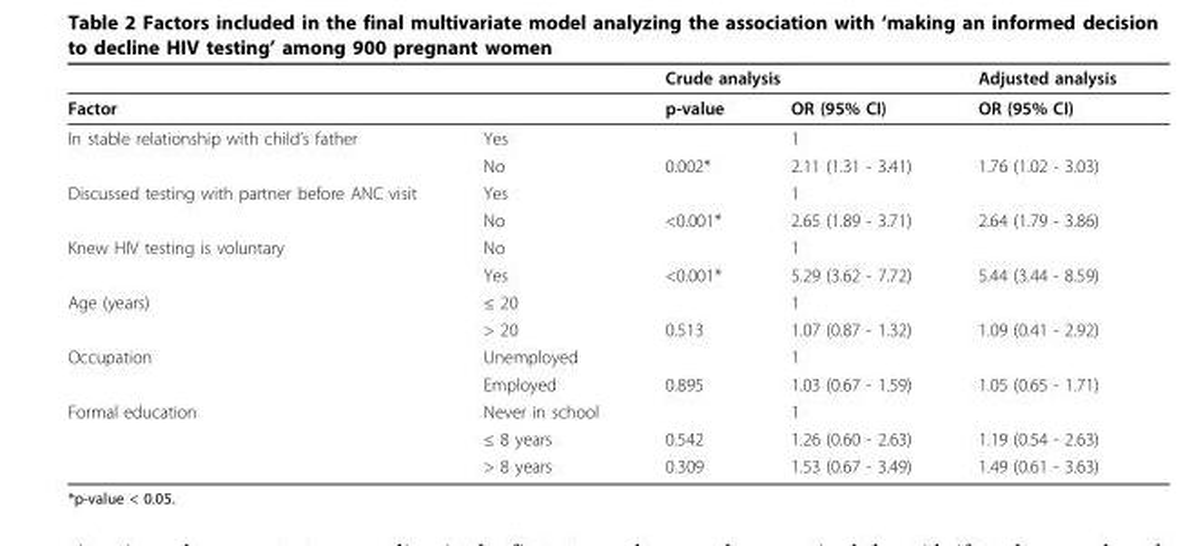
<table><thead><tr><td rowspan="2">Factor</td><td rowspan="2"></td><td colspan="2">Crude analysis</td><td rowspan="2">Adjusted analysis OR (95% CI)</td></tr><tr><td>p-value</td><td>OR (95% CI)</td></tr></thead><tbody><tr><td rowspan="2">In stable relationship with child’s father</td><td>Yes</td><td></td><td>1</td><td></td></tr><tr><td>No</td><td>0.002*</td><td>2.11 (1.31 - 3.41)</td><td>1.76 (1.02 - 3.03)</td></tr><tr><td rowspan="2">Discussed testing with partner before ANC visit</td><td>Yes</td><td></td><td>1</td><td></td></tr><tr><td>No</td><td>&lt;0.001*</td><td>2.65 (1.89 - 3.71)</td><td>2.64 (1.79 - 3.86)</td></tr><tr><td rowspan="2">Knew HIV testing is voluntary</td><td>No</td><td></td><td>1</td><td></td></tr><tr><td>Yes</td><td>&lt;0.001*</td><td>5.29 (3.62 - 7.72)</td><td>5.44 (3.44 - 8.59)</td></tr><tr><td rowspan="2">Age (years)</td><td>≤ 20</td><td></td><td>1</td><td></td></tr><tr><td>&gt; 20</td><td>0.513</td><td>1.07 (0.87 - 1.32)</td><td>1.09 (0.41 - 2.92)</td></tr><tr><td rowspan="2">Occupation</td><td>Unemployed</td><td></td><td>1</td><td></td></tr><tr><td>Employed</td><td>0.895</td><td>1.03 (0.67 - 1.59)</td><td>1.05 (0.65 - 1.71)</td></tr><tr><td rowspan="3">Formal education</td><td>Never in school</td><td></td><td>1</td><td></td></tr><tr><td>≤ 8 years</td><td>0.542</td><td>1.26 (0.60 - 2.63)</td><td>1.19 (0.54 - 2.63)</td></tr><tr><td>&gt; 8 years</td><td>0.309</td><td>1.53 (0.67 - 3.49)</td><td>1.49 (0.61 - 3.63)</td></tr></tbody></table>